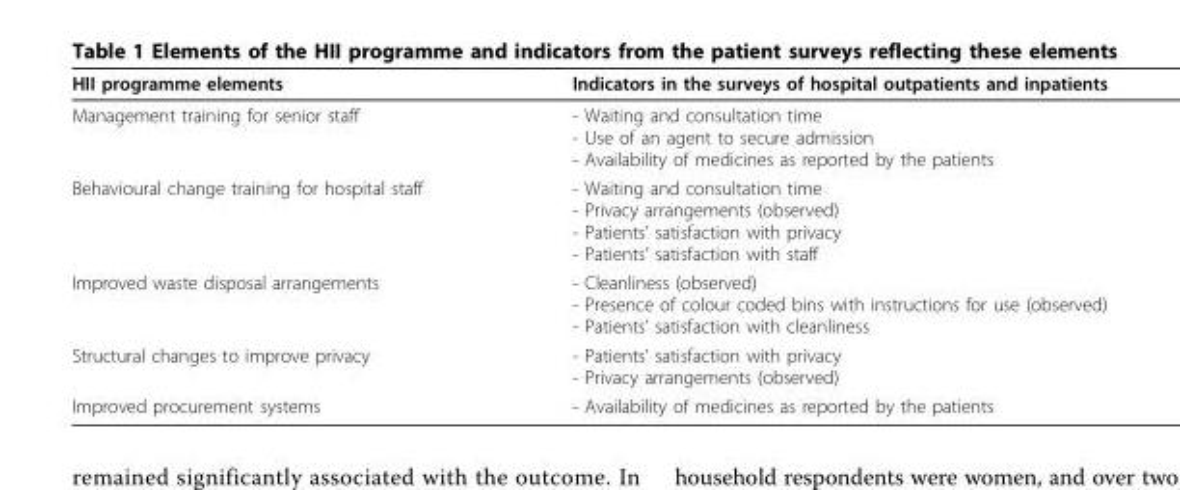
<table><thead><tr><td>HII programme elements</td><td>Indicators in the surveys of hospital outpatients and inpatients</td></tr></thead><tbody><tr><td>Management training for senior staff</td><td>- Waiting and consultation time - Use of an agent to secure admission - Availability of medicines as reported by the patients</td></tr><tr><td>Behavioural change training for hospital staff</td><td>- Waiting and consultation time - Privacy arrangements (observed) - Patients’ satisfaction with privacy - Patients’ satisfaction with staff</td></tr><tr><td>Improved waste disposal arrangements</td><td>- Cleanliness (observed) - Presence of colour coded bins with instructions for use (observed) - Patients’ satisfaction with cleanliness</td></tr><tr><td>Structural changes to improve privacy</td><td>- Patients’ satisfaction with privacy - Privacy arrangements (observed)</td></tr><tr><td>Improved procurement systems</td><td>- Availability of medicines as reported by the patients</td></tr></tbody></table>